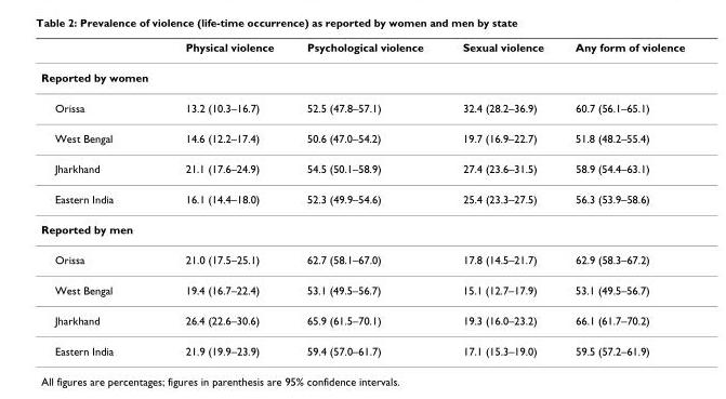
<table><thead><tr><td></td><td>Physical violence</td><td>Psychological violence</td><td>Sexual violence</td><td>Any form of violence</td></tr></thead><tbody><tr><td colspan="5">Reported by women</td></tr><tr><td>Orissa</td><td>13.2 (10.3–16.7)</td><td>52.5 (47.8–57.1)</td><td>32.4 (28.2–36.9)</td><td>60.7 (56.1–65.1)</td></tr><tr><td>West Bengal</td><td>14.6 (12.2–17.4)</td><td>50.6 (47.0–54.2)</td><td>19.7 (16.9–22.7)</td><td>51.8 (48.2–55.4)</td></tr><tr><td>Jharkhand</td><td>21.1 (17.6–24.9)</td><td>54.5 (50.1–58.9)</td><td>27.4 (23.6–31.5)</td><td>58.9 (54.4–63.1)</td></tr><tr><td>Eastern India</td><td>16.1 (14.4–18.0)</td><td>52.3 (49.9–54.6)</td><td>25.4 (23.3–27.5)</td><td>56.3 (53.9–58.6)</td></tr><tr><td colspan="5">Reported by men</td></tr><tr><td>Orissa</td><td>21.0 (17.5–25.1)</td><td>62.7 (58.1–67.0)</td><td>17.8 (14.5–21.7)</td><td>62.9 (58.3–67.2)</td></tr><tr><td>West Bengal</td><td>19.4 (16.7–22.4)</td><td>53.1 (49.5–56.7)</td><td>15.1 (12.7–17.9)</td><td>53.1 (49.5–56.7)</td></tr><tr><td>Jharkhand</td><td>26.4 (22.6–30.6)</td><td>65.9 (61.5–70.1)</td><td>19.3 (16.0–23.2)</td><td>66.1 (61.7–70.2)</td></tr><tr><td>Eastern India</td><td>21.9 (19.9–23.9)</td><td>59.4 (57.0–61.7)</td><td>17.1 (15.3–19.0)</td><td>59.5 (57.2–61.9)</td></tr></tbody></table>